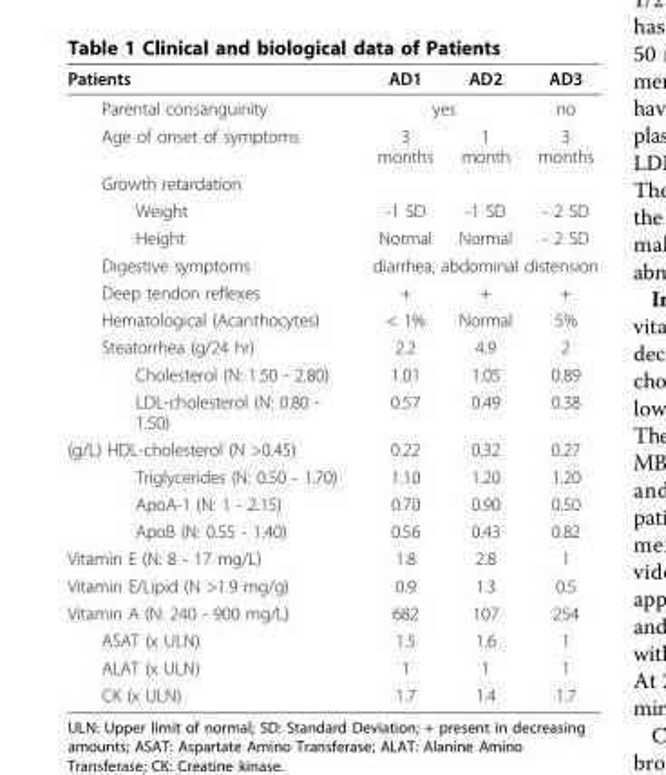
<table><thead><tr><td>Patients</td><td>AD1</td><td>AD2</td><td>AD3</td></tr></thead><tbody><tr><td>Parental consanguinity</td><td colspan="2">yes</td><td>no</td></tr><tr><td>Age of onset of symptoms</td><td>3 months</td><td>1 month</td><td>3 months</td></tr><tr><td colspan="4">Growth retardation</td></tr><tr><td>Weight</td><td>-1 SD</td><td>-1 SD</td><td>- 2 SD</td></tr><tr><td>Height</td><td>Normal</td><td>Normal</td><td>- 2 SD</td></tr><tr><td>Digestive symptoms</td><td colspan="3">diarrhea, abdominal distension</td></tr><tr><td>Deep tendon reflexes</td><td>+</td><td>+</td><td>+</td></tr><tr><td>Hematological (Acanthocytes)</td><td>&lt; 1%</td><td>Normal</td><td>5%</td></tr><tr><td>Steatorrhea (g/24 hr)</td><td>2.2</td><td>4.9</td><td>2</td></tr><tr><td>Cholesterol (N: 1.50 - 2.80)</td><td>1.01</td><td>1.05</td><td>0.89</td></tr><tr><td>LDL-cholesterol (N: 0.80 - 1.50)</td><td>0.57</td><td>0.49</td><td>0.38</td></tr><tr><td>(g/L) HDL-cholesterol (N &gt;0.45)</td><td>0.22</td><td>0.32</td><td>0.27</td></tr><tr><td>Triglycerides (N: 0.50 - 1.70)</td><td>1.10</td><td>1.20</td><td>1.20</td></tr><tr><td>ApoA-1 (N: 1 - 2.15)</td><td>0.70</td><td>0.90</td><td>0.50</td></tr><tr><td>ApoB (N: 0.55 - 1.40)</td><td>0.56</td><td>0.43</td><td>0.82</td></tr><tr><td>Vitamin E (N: 8 - 17 mg/L)</td><td>1.8</td><td>2.8</td><td>1</td></tr><tr><td>Vitamin E/Lipid (N &gt;1.9 mg/g)</td><td>0.9</td><td>1.3</td><td>0.5</td></tr><tr><td>Vitamin A (N: 240 - 900 mg/L)</td><td>682</td><td>107</td><td>254</td></tr><tr><td>ASAT (x ULN)</td><td>1.5</td><td>1.6</td><td>1</td></tr><tr><td>ALAT (x ULN)</td><td>1</td><td>1</td><td>1</td></tr><tr><td>CK (x ULN)</td><td>1.7</td><td>1.4</td><td>1.7</td></tr></tbody></table>